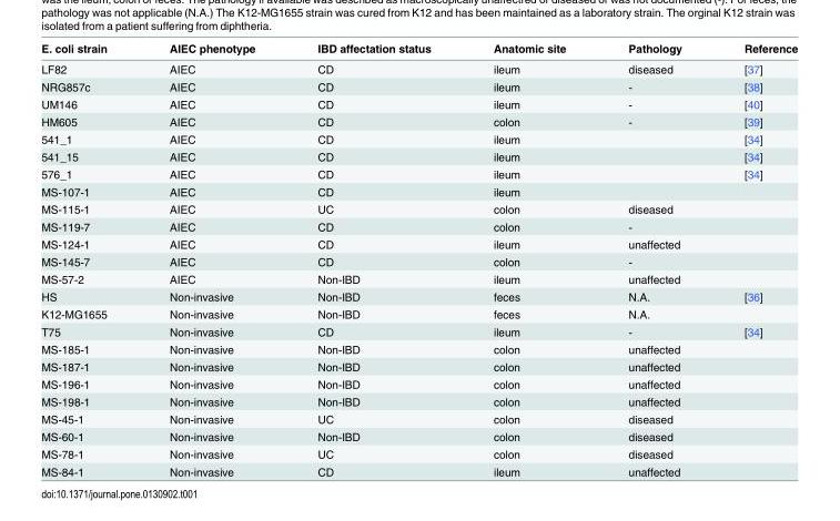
<table><thead><tr><td>E. coli strain</td><td>AIEC phenotype</td><td>IBD affectation status</td><td>Anatomic site</td><td>Pathology</td><td>Reference</td></tr></thead><tbody><tr><td>LF82</td><td>AIEC</td><td>CD</td><td>ileum</td><td>diseased</td><td>[37]</td></tr><tr><td>NRG857c</td><td>AIEC</td><td>CD</td><td>ileum</td><td>-</td><td>[38]</td></tr><tr><td>UM146</td><td>AIEC</td><td>CD</td><td>ileum</td><td>-</td><td>[40]</td></tr><tr><td>HM605</td><td>AIEC</td><td>CD</td><td>colon</td><td>-</td><td>[39]</td></tr><tr><td>541_1</td><td>AIEC</td><td>CD</td><td>ileum</td><td></td><td>[34]</td></tr><tr><td>541_15</td><td>AIEC</td><td>CD</td><td>ileum</td><td></td><td>[34]</td></tr><tr><td>576_1</td><td>AIEC</td><td>CD</td><td>ileum</td><td></td><td>[34]</td></tr><tr><td>MS-107-1</td><td>AIEC</td><td>CD</td><td>ileum</td><td></td><td></td></tr><tr><td>MS-115-1</td><td>AIEC</td><td>UC</td><td>colon</td><td>diseased</td><td></td></tr><tr><td>MS-119-7</td><td>AIEC</td><td>CD</td><td>colon</td><td>-</td><td></td></tr><tr><td>MS-124-1</td><td>AIEC</td><td>CD</td><td>ileum</td><td>unaffected</td><td></td></tr><tr><td>MS-145-7</td><td>AIEC</td><td>CD</td><td>colon</td><td>-</td><td></td></tr><tr><td>MS-57-2</td><td>AIEC</td><td>Non-IBD</td><td>ileum</td><td>unaffected</td><td></td></tr><tr><td>HS</td><td>Non-invasive</td><td>Non-IBD</td><td>feces</td><td>N.A.</td><td>[36]</td></tr><tr><td>K12-MG1655</td><td>Non-invasive</td><td>Non-IBD</td><td>feces</td><td>N.A.</td><td></td></tr><tr><td>T75</td><td>Non-invasive</td><td>CD</td><td>ileum</td><td>-</td><td>[34]</td></tr><tr><td>MS-185-1</td><td>Non-invasive</td><td>Non-IBD</td><td>colon</td><td>unaffected</td><td></td></tr><tr><td>MS-187-1</td><td>Non-invasive</td><td>Non-IBD</td><td>colon</td><td>unaffected</td><td></td></tr><tr><td>MS-196-1</td><td>Non-invasive</td><td>Non-IBD</td><td>colon</td><td>unaffected</td><td></td></tr><tr><td>MS-198-1</td><td>Non-invasive</td><td>Non-IBD</td><td>colon</td><td>unaffected</td><td></td></tr><tr><td>MS-45-1</td><td>Non-invasive</td><td>UC</td><td>colon</td><td>diseased</td><td></td></tr><tr><td>MS-60-1</td><td>Non-invasive</td><td>Non-IBD</td><td>colon</td><td>diseased</td><td></td></tr><tr><td>MS-78-1</td><td>Non-invasive</td><td>UC</td><td>colon</td><td>diseased</td><td></td></tr><tr><td>MS-84-1</td><td>Non-invasive</td><td>CD</td><td>ileum</td><td>unaffected</td><td></td></tr></tbody></table>